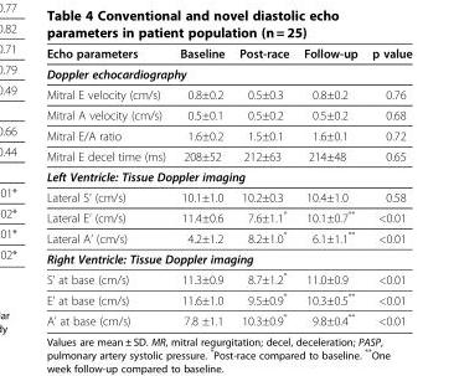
<table><thead><tr><td>Echo parameters</td><td>Baseline</td><td>Post-race</td><td>Follow-up</td><td>p value</td></tr></thead><tbody><tr><td colspan="5">Doppler echocardiography</td></tr><tr><td>Mitral E velocity (cm/s)</td><td>0.8±0.2</td><td>0.5±0.3</td><td>0.8±0.2</td><td>0.76</td></tr><tr><td>Mitral A velocity (cm/s)</td><td>0.5±0.1</td><td>0.5±0.2</td><td>0.5±0.2</td><td>0.68</td></tr><tr><td>Mitral E/A ratio</td><td>1.6±0.2</td><td>1.5±0.1</td><td>1.6±0.1</td><td>0.72</td></tr><tr><td>Mitral E decel time (ms)</td><td>208±52</td><td>212±63</td><td>214±48</td><td>0.65</td></tr><tr><td colspan="5">Left Ventricle: Tissue Doppler imaging</td></tr><tr><td>Lateral S’ (cm/s)</td><td>10.1±1.0</td><td>10.2±0.3</td><td>10.4±1.0</td><td>0.58</td></tr><tr><td>Lateral E’ (cm/s)</td><td>11.4±0.6</td><td>7.6±1.1*</td><td>10.1±0.7**</td><td>&lt;0.01</td></tr><tr><td>Lateral A’ (cm/s)</td><td>4.2±1.2</td><td>8.2±1.0*</td><td>6.1±1.1**</td><td>&lt;0.01</td></tr><tr><td colspan="5">Right Ventricle: Tissue Doppler imaging</td></tr><tr><td>S’ at base (cm/s)</td><td>11.3±0.9</td><td>8.7±1.2*</td><td>11.0±0.9</td><td>&lt;0.01</td></tr><tr><td>E’ at base (cm/s)</td><td>11.6±1.0</td><td>9.5±0.9*</td><td>10.3±0.5**</td><td>&lt;0.01</td></tr><tr><td>A’ at base (cm/s)</td><td>7.8 ±1.1</td><td>10.3±0.9*</td><td>9.8±0.4**</td><td>&lt;0.01</td></tr></tbody></table>